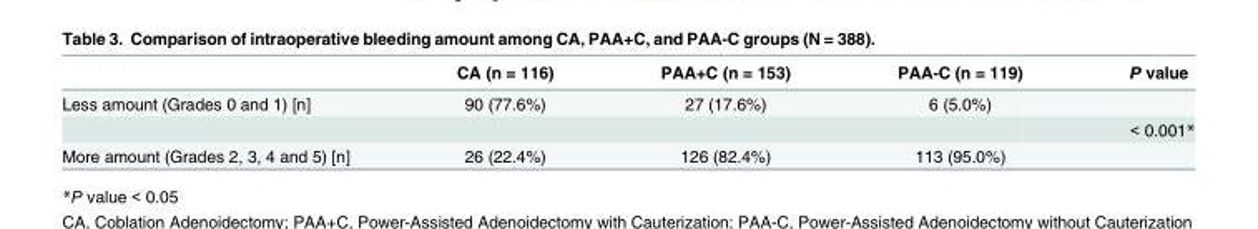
<table><thead><tr><td></td><td>CA (n = 116)</td><td>PAA+C (n = 153)</td><td>PAA-C (n = 119)</td><td>P value</td></tr></thead><tbody><tr><td rowspan="2">Less amount (Grades 0 and 1) [n]</td><td>90 (77.6%)</td><td>27 (17.6%)</td><td>6 (5.0%)</td><td></td></tr><tr><td></td><td></td><td></td><td>&lt; 0.001*</td></tr><tr><td>More amount (Grades 2, 3, 4 and 5) [n]</td><td>26 (22.4%)</td><td>126 (82.4%)</td><td>113 (95.0%)</td><td></td></tr></tbody></table>